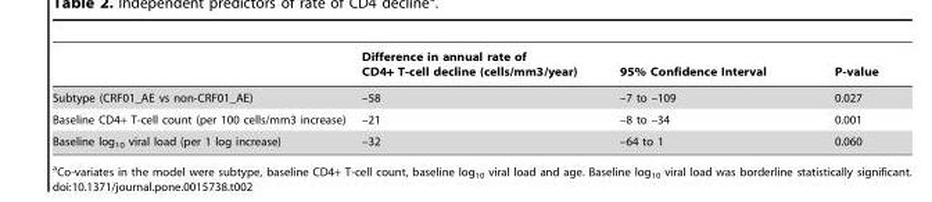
<table><thead><tr><td></td><td>Difference in annual rate of CD4+ T-cell decline (cells/mm3/year)</td><td>95% Confidence Interval</td><td>P-value</td></tr></thead><tbody><tr><td>Subtype (CRF01_AE vs non-CRF01_AE)</td><td>–58</td><td>–7 to –109</td><td>0.027</td></tr><tr><td>Baseline CD4+ T-cell count (per 100 cells/mm3 increase)</td><td>–21</td><td>–8 to –34</td><td>0.001</td></tr><tr><td>Baseline log<sub>10</sub> viral load (per 1 log increase)</td><td>–32</td><td>–64 to 1</td><td>0.060</td></tr></tbody></table>